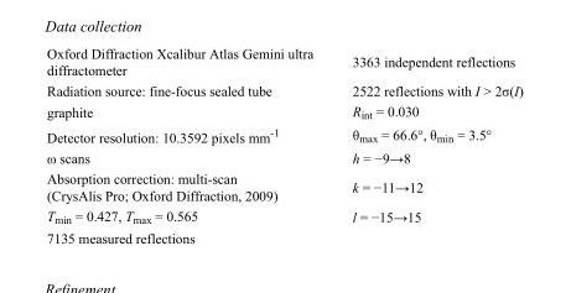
<table><tbody><tr><td>Oxford Diffraction Xcalibur Atlas Gemini ultra diffractometer</td><td>3363 independent reflections</td></tr><tr><td>Radiation source: fine-focus sealed tube</td><td>2522 reflections with I &gt; 2σ(I)</td></tr><tr><td>graphite</td><td>R<sub>int</sub> = 0.030</td></tr><tr><td>Detector resolution: 10.3592 pixels mm<sup>-1</sup></td><td>θ<sub>max</sub> = 66.6°, θ<sub>min</sub> = 3.5°</td></tr><tr><td>ω scans</td><td>h = −9→8</td></tr><tr><td>Absorption correction: multi-scan (CrysAlis Pro; Oxford Diffraction, 2009)</td><td>k = −11→12</td></tr><tr><td>T<sub>min</sub> = 0.427, T<sub>max</sub> = 0.565</td><td>l = −15→15</td></tr><tr><td>7135 measured reflections</td><td></td></tr></tbody></table>